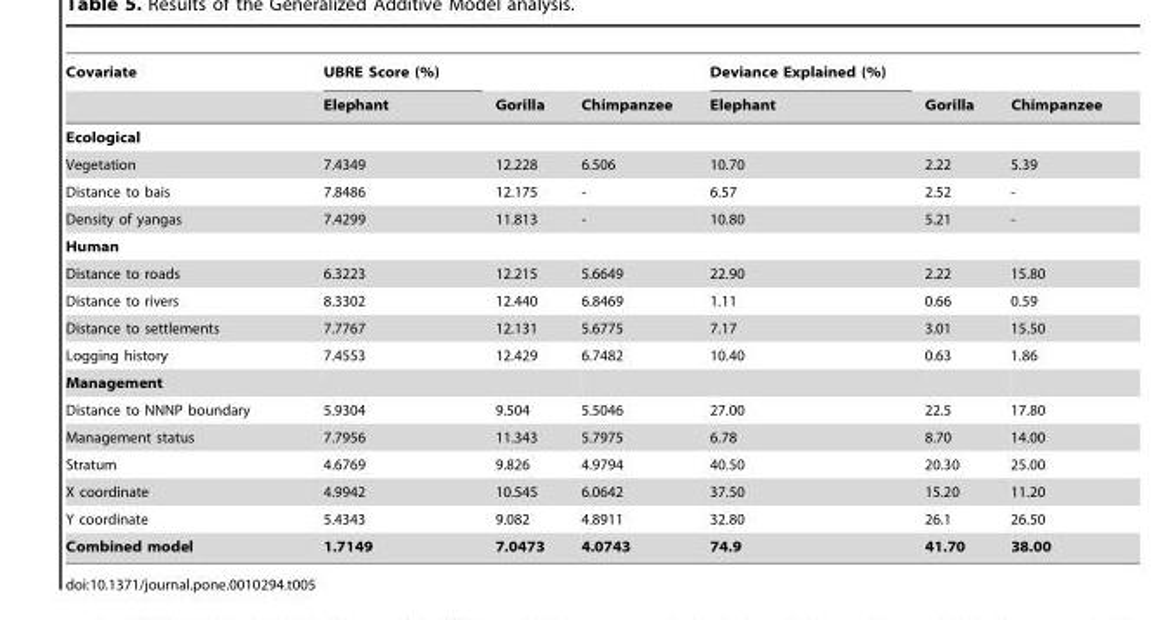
<table><thead><tr><td rowspan="2">Covariate</td><td rowspan="2">UBRE Score (%) Elephant</td><td rowspan="2">Gorilla</td><td rowspan="2">Chimpanzee</td><td rowspan="2">Deviance Explained (%) Elephant</td><td rowspan="2">Gorilla</td><td rowspan="2">Chimpanzee</td></tr><tr></tr></thead><tbody><tr><td colspan="7">Ecological</td></tr><tr><td>Vegetation</td><td>7.4349</td><td>12.228</td><td>6.506</td><td>10.70</td><td>2.22</td><td>5.39</td></tr><tr><td>Distance to bais</td><td>7.8486</td><td>12.175</td><td>-</td><td>6.57</td><td>2.52</td><td>-</td></tr><tr><td>Density of yangas</td><td>7.4299</td><td>11.813</td><td>-</td><td>10.80</td><td>5.21</td><td>-</td></tr><tr><td colspan="7">Human</td></tr><tr><td>Distance to roads</td><td>6.3223</td><td>12.215</td><td>5.6649</td><td>22.90</td><td>2.22</td><td>15.80</td></tr><tr><td>Distance to rivers</td><td>8.3302</td><td>12.440</td><td>6.8469</td><td>1.11</td><td>0.66</td><td>0.59</td></tr><tr><td>Distance to settlements</td><td>7.7767</td><td>12.131</td><td>5.6775</td><td>7.17</td><td>3.01</td><td>15.50</td></tr><tr><td>Logging history</td><td>7.4553</td><td>12.429</td><td>6.7482</td><td>10.40</td><td>0.63</td><td>1.86</td></tr><tr><td colspan="7">Management</td></tr><tr><td>Distance to NNNP boundary</td><td>5.9304</td><td>9.504</td><td>5.5046</td><td>27.00</td><td>22.5</td><td>17.80</td></tr><tr><td>Management status</td><td>7.7956</td><td>11.343</td><td>5.7975</td><td>6.78</td><td>8.70</td><td>14.00</td></tr><tr><td>Stratum</td><td>4.6769</td><td>9.826</td><td>4.9794</td><td>40.50</td><td>20.30</td><td>25.00</td></tr><tr><td>X coordinate</td><td>4.9942</td><td>10.545</td><td>6.0642</td><td>37.50</td><td>15.20</td><td>11.20</td></tr><tr><td>Y coordinate</td><td>5.4343</td><td>9.082</td><td>4.8911</td><td>32.80</td><td>26.1</td><td>26.50</td></tr><tr><td>Combined model</td><td>1.7149</td><td>7.0473</td><td>4.0743</td><td>74.9</td><td>41.70</td><td>38.00</td></tr></tbody></table>